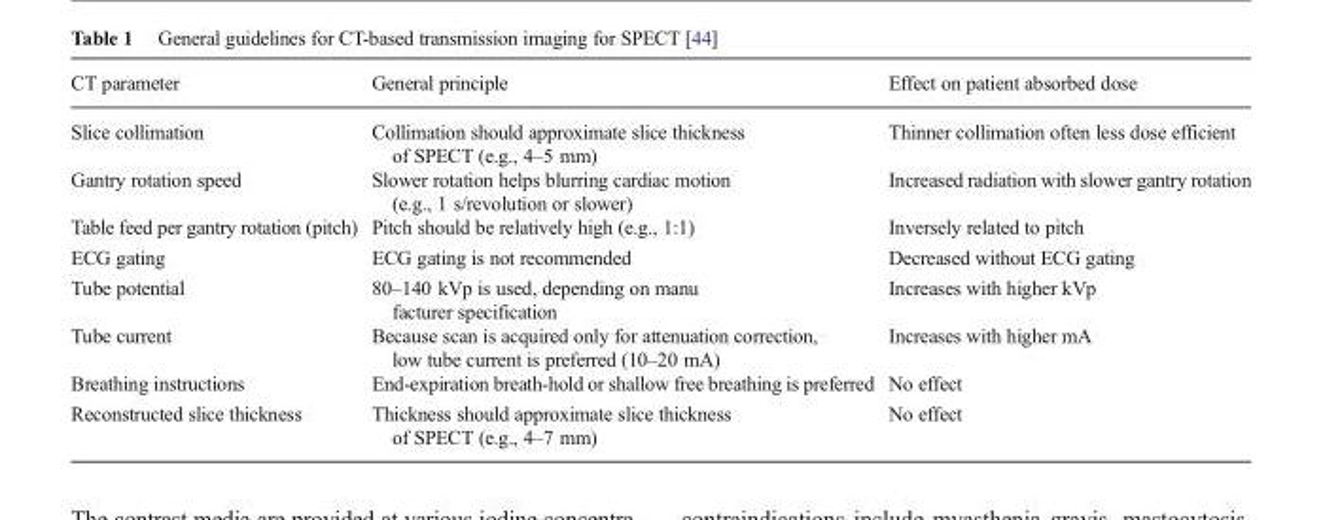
<table><thead><tr><td>CT parameter</td><td>General principle</td><td>Effect on patient absorbed dose</td></tr></thead><tbody><tr><td>Slice collimation</td><td>Collimation should approximate slice thickness of SPECT (e.g., 4–5 mm)</td><td>Thinner collimation often less dose efficient</td></tr><tr><td>Gantry rotation speed</td><td>Slower rotation helps blurring cardiac motion (e.g., 1 s/revolution or slower)</td><td>Increased radiation with slower gantry rotation</td></tr><tr><td>Table feed per gantry rotation (pitch)</td><td>Pitch should be relatively high (e.g., 1:1)</td><td>Inversely related to pitch</td></tr><tr><td>ECG gating</td><td>ECG gating is not recommended</td><td>Decreased without ECG gating</td></tr><tr><td>Tube potential</td><td>80–140 kVp is used, depending on manu facturer specification</td><td>Increases with higher kVp</td></tr><tr><td>Tube current</td><td>Because scan is acquired only for attenuation correction, low tube current is preferred (10–20 mA)</td><td>Increases with higher mA</td></tr><tr><td>Breathing instructions</td><td>End-expiration breath-hold or shallow free breathing is preferred</td><td>No effect</td></tr><tr><td>Reconstructed slice thickness</td><td>Thickness should approximate slice thickness of SPECT (e.g., 4–7 mm)</td><td>No effect</td></tr></tbody></table>